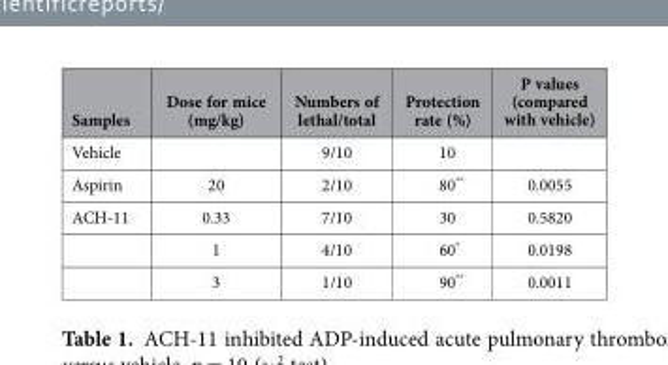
<table><thead><tr><td>Samples</td><td>Dose for mice (mg/kg)</td><td>Numbers of lethal/total</td><td>Protection rate (%)</td><td>P values (compared with vehicle)</td></tr></thead><tbody><tr><td>Vehicle</td><td></td><td>9/10</td><td>10</td><td></td></tr><tr><td>Aspirin</td><td>20</td><td>2/10</td><td>80**</td><td>0.0055</td></tr><tr><td rowspan="3">ACH-11</td><td>0.33</td><td>7/10</td><td>30</td><td>0.5820</td></tr><tr><td>1</td><td>4/10</td><td>60*</td><td>0.0198</td></tr><tr><td>3</td><td>1/10</td><td>90**</td><td>0.0011</td></tr></tbody></table>